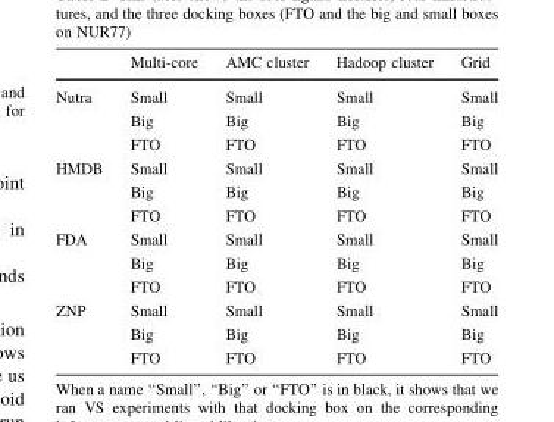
<table><thead><tr><td></td><td>Multi-core</td><td>AMC cluster</td><td>Hadoop cluster</td><td>Grid</td></tr></thead><tbody><tr><td rowspan="3">Nutra</td><td>Small</td><td>Small</td><td>Small</td><td>Small</td></tr><tr><td>Big</td><td>Big</td><td>Big</td><td>Big</td></tr><tr><td>FTO</td><td>FTO</td><td>FTO</td><td>FTO</td></tr><tr><td rowspan="3">HMDB</td><td>Small</td><td>Small</td><td>Small</td><td>Small</td></tr><tr><td>Big</td><td>Big</td><td>Big</td><td>Big</td></tr><tr><td>FTO</td><td>FTO</td><td>FTO</td><td>FTO</td></tr><tr><td rowspan="3">FDA</td><td>Small</td><td>Small</td><td>Small</td><td>Small</td></tr><tr><td>Big</td><td>Big</td><td>Big</td><td>Big</td></tr><tr><td>FTO</td><td>FTO</td><td>FTO</td><td>FTO</td></tr><tr><td rowspan="3">ZNP</td><td>Small</td><td>Small</td><td>Small</td><td>Small</td></tr><tr><td>Big</td><td>Big</td><td>Big</td><td>Big</td></tr><tr><td>FTO</td><td>FTO</td><td>FTO</td><td>FTO</td></tr></tbody></table>